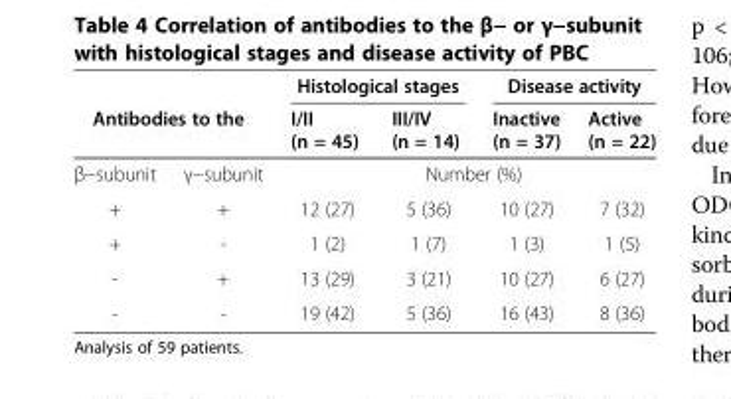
<table><thead><tr><td></td><td></td><td colspan="2">Histological stages</td><td colspan="2">Disease activity</td></tr><tr><td colspan="2">Antibodies to the</td><td>I/II (n = 45)</td><td>III/IV (n = 14)</td><td>Inactive (n = 37)</td><td>Active (n = 22)</td></tr></thead><tbody><tr><td>β−subunit</td><td>γ−subunit</td><td colspan="4">Number (%)</td></tr><tr><td>+</td><td>+</td><td>12 (27)</td><td>5 (36)</td><td>10 (27)</td><td>7 (32)</td></tr><tr><td>+</td><td>-</td><td>1 (2)</td><td>1 (7)</td><td>1 (3)</td><td>1 (5)</td></tr><tr><td>-</td><td>+</td><td>13 (29)</td><td>3 (21)</td><td>10 (27)</td><td>6 (27)</td></tr><tr><td>-</td><td>-</td><td>19 (42)</td><td>5 (36)</td><td>16 (43)</td><td>8 (36)</td></tr></tbody></table>